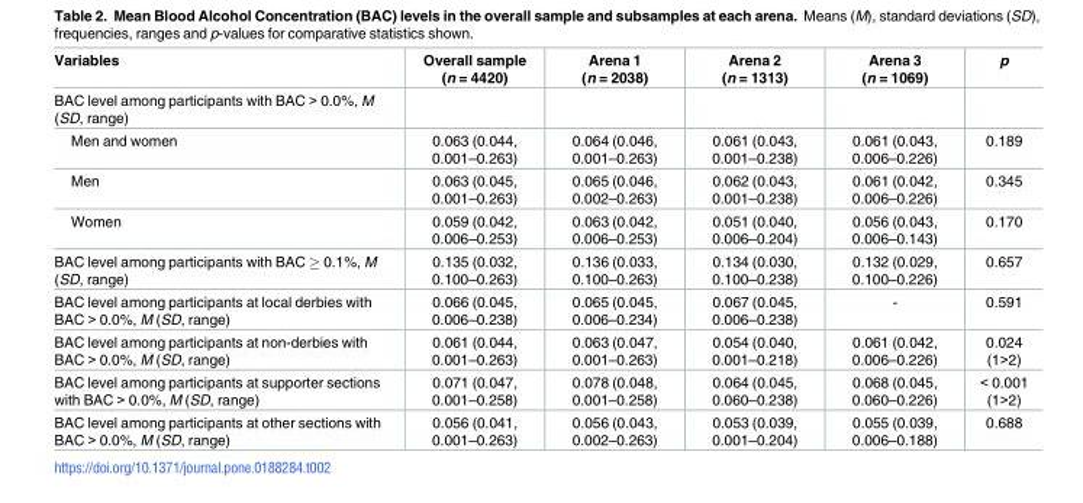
<table><thead><tr><td>Variables</td><td>Overall sample (n = 4420)</td><td>Arena 1 (n = 2038)</td><td>Arena 2 (n = 1313)</td><td>Arena 3 (n = 1069)</td><td>p</td></tr></thead><tbody><tr><td colspan="6">BAC level among participants with BAC &gt; 0.0%, M (SD, range)</td></tr><tr><td>Men and women</td><td>0.063 (0.044, 0.001–0.263)</td><td>0.064 (0.046, 0.001–0.263)</td><td>0.061 (0.043, 0.001–0.238)</td><td>0.061 (0.043, 0.006–0.226)</td><td>0.189</td></tr><tr><td>Men</td><td>0.063 (0.045, 0.001–0.263)</td><td>0.065 (0.046, 0.002–0.263)</td><td>0.062 (0.043, 0.001–0.238)</td><td>0.061 (0.042, 0.006–0.226)</td><td>0.345</td></tr><tr><td>Women</td><td>0.059 (0.042, 0.006–0.253)</td><td>0.063 (0.042, 0.006–0.253)</td><td>0.051 (0.040, 0.006–0.204)</td><td>0.056 (0.043, 0.006–0.143)</td><td>0.170</td></tr><tr><td>BAC level among participants with BAC ≥ 0.1%, M (SD, range)</td><td>0.135 (0.032, 0.100–0.263)</td><td>0.136 (0.033, 0.100–0.263)</td><td>0.134 (0.030, 0.100–0.238)</td><td>0.132 (0.029, 0.100–0.226)</td><td>0.657</td></tr><tr><td>BAC level among participants at local derbies with BAC &gt; 0.0%, M (SD, range)</td><td>0.066 (0.045, 0.006–0.238)</td><td>0.065 (0.045, 0.006–0.234)</td><td>0.067 (0.045, 0.006–0.238)</td><td>-</td><td>0.591</td></tr><tr><td>BAC level among participants at non-derbies with BAC &gt; 0.0%, M (SD, range)</td><td>0.061 (0.044, 0.001–0.263)</td><td>0.063 (0.047, 0.001–0.263)</td><td>0.054 (0.040, 0.001–0.218)</td><td>0.061 (0.042, 0.006–0.226)</td><td>0.024 (1&gt;2)</td></tr><tr><td>BAC level among participants at supporter sections with BAC &gt; 0.0%, M (SD, range)</td><td>0.071 (0.047, 0.001–0.258)</td><td>0.078 (0.048, 0.001–0.258)</td><td>0.064 (0.045, 0.060–0.238)</td><td>0.068 (0.045, 0.060–0.226)</td><td>&lt; 0.001 (1&gt;2)</td></tr><tr><td>BAC level among participants at other sections with BAC &gt; 0.0%, M (SD, range)</td><td>0.056 (0.041, 0.001–0.263)</td><td>0.056 (0.043, 0.002–0.263)</td><td>0.053 (0.039, 0.001–0.204)</td><td>0.055 (0.039, 0.006–0.188)</td><td>0.688</td></tr></tbody></table>